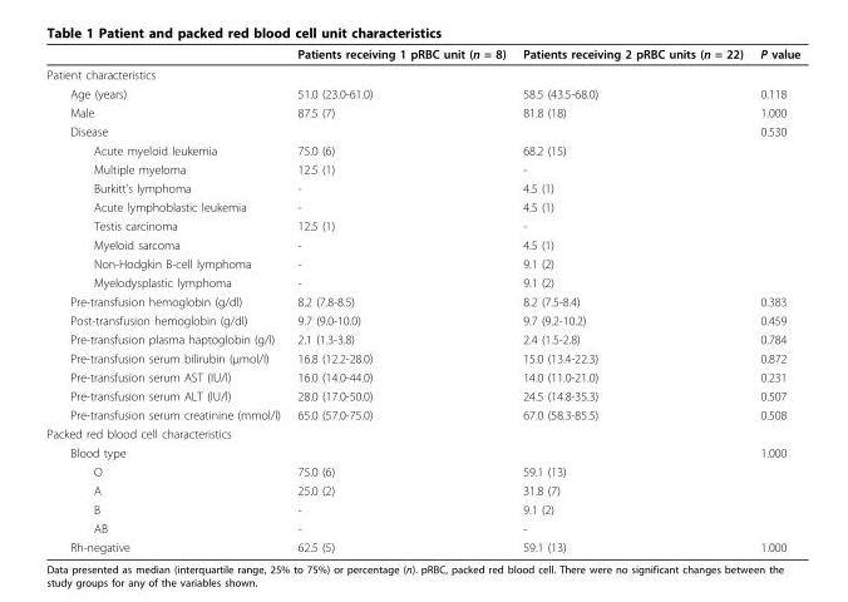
<table><thead><tr><td></td><td>Patients receiving 1 pRBC unit (n = 8)</td><td>Patients receiving 2 pRBC units (n = 22)</td><td>P value</td></tr></thead><tbody><tr><td colspan="4">Patient characteristics</td></tr><tr><td>Age (years)</td><td>51.0 (23.0-61.0)</td><td>58.5 (43.5-68.0)</td><td>0.118</td></tr><tr><td>Male</td><td>87.5 (7)</td><td>81.8 (18)</td><td>1.000</td></tr><tr><td>Disease</td><td></td><td></td><td>0.530</td></tr><tr><td>Acute myeloid leukemia</td><td>75.0 (6)</td><td>68.2 (15)</td><td></td></tr><tr><td>Multiple myeloma</td><td>12.5 (1)</td><td>-</td><td></td></tr><tr><td>Burkitt’s lymphoma</td><td>-</td><td>4.5 (1)</td><td></td></tr><tr><td>Acute lymphoblastic leukemia</td><td>-</td><td>4.5 (1)</td><td></td></tr><tr><td>Testis carcinoma</td><td>12.5 (1)</td><td>-</td><td></td></tr><tr><td>Myeloid sarcoma</td><td>-</td><td>4.5 (1)</td><td></td></tr><tr><td>Non-Hodgkin B-cell lymphoma</td><td>-</td><td>9.1 (2)</td><td></td></tr><tr><td>Myelodysplastic lymphoma</td><td>-</td><td>9.1 (2)</td><td></td></tr><tr><td>Pre-transfusion hemoglobin (g/dl)</td><td>8.2 (7.8-8.5)</td><td>8.2 (7.5-8.4)</td><td>0.383</td></tr><tr><td>Post-transfusion hemoglobin (g/dl)</td><td>9.7 (9.0-10.0)</td><td>9.7 (9.2-10.2)</td><td>0.459</td></tr><tr><td>Pre-transfusion plasma haptoglobin (g/l)</td><td>2.1 (1.3-3.8)</td><td>2.4 (1.5-2.8)</td><td>0.784</td></tr><tr><td>Pre-transfusion serum bilirubin (μmol/l)</td><td>16.8 (12.2-28.0)</td><td>15.0 (13.4-22.3)</td><td>0.872</td></tr><tr><td>Pre-transfusion serum AST (IU/l)</td><td>16.0 (14.0-44.0)</td><td>14.0 (11.0-21.0)</td><td>0.231</td></tr><tr><td>Pre-transfusion serum ALT (IU/l)</td><td>28.0 (17.0-50.0)</td><td>24.5 (14.8-35.3)</td><td>0.507</td></tr><tr><td>Pre-transfusion serum creatinine (mmol/l)</td><td>65.0 (57.0-75.0)</td><td>67.0 (58.3-85.5)</td><td>0.508</td></tr><tr><td colspan="4">Packed red blood cell characteristics</td></tr><tr><td>Blood type</td><td></td><td></td><td>1.000</td></tr><tr><td>O</td><td>75.0 (6)</td><td>59.1 (13)</td><td></td></tr><tr><td>A</td><td>25.0 (2)</td><td>31.8 (7)</td><td></td></tr><tr><td>B</td><td>-</td><td>9.1 (2)</td><td></td></tr><tr><td>AB</td><td>-</td><td>-</td><td></td></tr><tr><td>Rh-negative</td><td>62.5 (5)</td><td>59.1 (13)</td><td>1.000</td></tr></tbody></table>